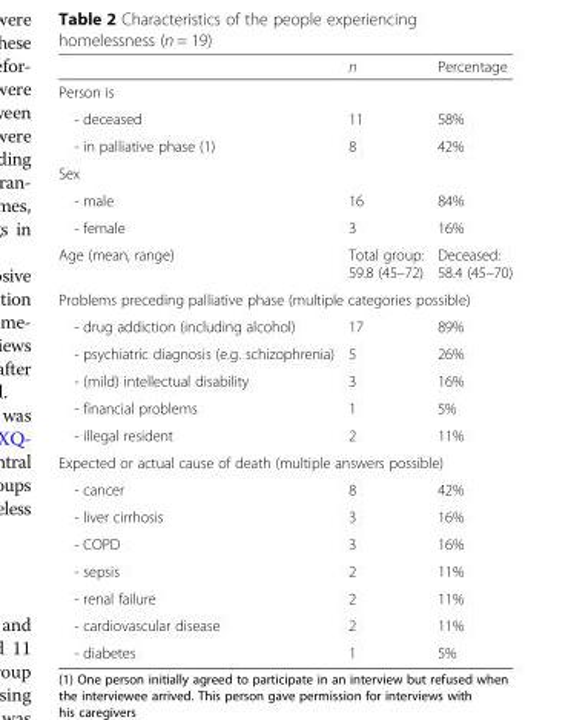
<table><thead><tr><td></td><td>n</td><td>Percentage</td></tr></thead><tbody><tr><td colspan="3">Person is</td></tr><tr><td>- deceased</td><td>11</td><td>58%</td></tr><tr><td>- in palliative phase (1)</td><td>8</td><td>42%</td></tr><tr><td colspan="3">Sex</td></tr><tr><td>- male</td><td>16</td><td>84%</td></tr><tr><td>- female</td><td>3</td><td>16%</td></tr><tr><td>Age (mean, range)</td><td>Total group: 59.8 (45–72)</td><td>Deceased: 58.4 (45–70)</td></tr><tr><td colspan="3">Problems preceding palliative phase (multiple categories possible)</td></tr><tr><td>- drug addiction (including alcohol)</td><td>17</td><td>89%</td></tr><tr><td>- psychiatric diagnosis (e.g. schizophrenia)</td><td>5</td><td>26%</td></tr><tr><td>- (mild) intellectual disability</td><td>3</td><td>16%</td></tr><tr><td>- financial problems</td><td>1</td><td>5%</td></tr><tr><td>- illegal resident</td><td>2</td><td>11%</td></tr><tr><td colspan="3">Expected or actual cause of death (multiple answers possible)</td></tr><tr><td>- cancer</td><td>8</td><td>42%</td></tr><tr><td>- liver cirrhosis</td><td>3</td><td>16%</td></tr><tr><td>- COPD</td><td>3</td><td>16%</td></tr><tr><td>- sepsis</td><td>2</td><td>11%</td></tr><tr><td>- renal failure</td><td>2</td><td>11%</td></tr><tr><td>- cardiovascular disease</td><td>2</td><td>11%</td></tr><tr><td>- diabetes</td><td>1</td><td>5%</td></tr></tbody></table>